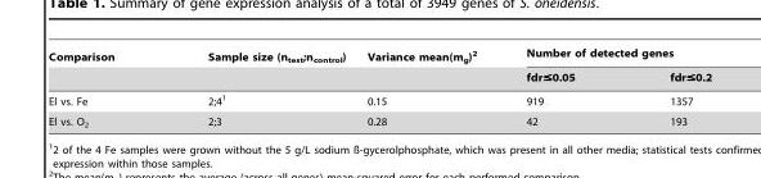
<table><thead><tr><td rowspan="2">Comparison</td><td rowspan="2">Sample size (n<sub>test</sub>;n<sub>control</sub>)</td><td rowspan="2">Variance mean(m<sub>g</sub>)<sup>2</sup></td><td colspan="2">Number of detected genes</td></tr><tr><td>fdr≤0.05</td><td>fdr≤0.2</td></tr></thead><tbody><tr><td>El vs. Fe</td><td>2;4<sup>1</sup></td><td>0.15</td><td>919</td><td>1357</td></tr><tr><td>El vs. O<sub>2</sub></td><td>2;3</td><td>0.28</td><td>42</td><td>193</td></tr></tbody></table>